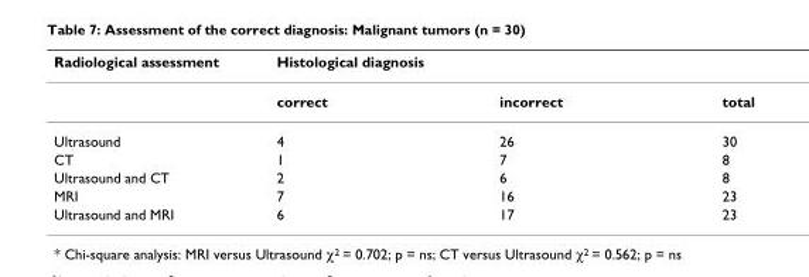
<table><thead><tr><td rowspan="2">Radiological assessment</td><td colspan="3">Histological diagnosis</td></tr><tr><td>correct</td><td>incorrect</td><td>total</td></tr></thead><tbody><tr><td>Ultrasound</td><td>4</td><td>26</td><td>30</td></tr><tr><td>CT</td><td>1</td><td>7</td><td>8</td></tr><tr><td>Ultrasound and CT</td><td>2</td><td>6</td><td>8</td></tr><tr><td>MRI</td><td>7</td><td>16</td><td>23</td></tr><tr><td>Ultrasound and MRI</td><td>6</td><td>17</td><td>23</td></tr></tbody></table>